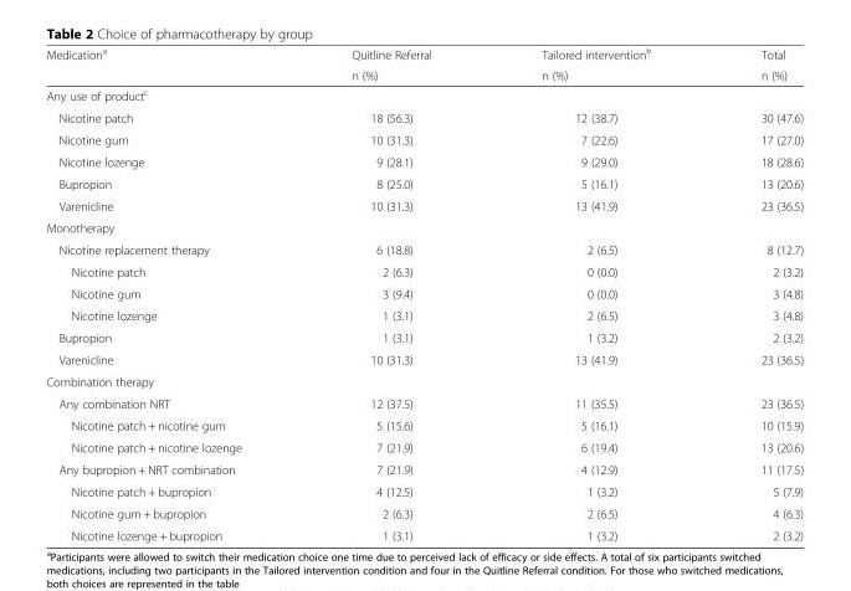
<table><thead><tr><td rowspan="2">Medication<sup>a</sup></td><td rowspan="2">Quitline Referral n (%)</td><td rowspan="2">Tailored intervention<sup>b</sup> n (%)</td><td rowspan="2">Total n (%)</td></tr><tr></tr></thead><tbody><tr><td colspan="4">Any use of product<sup>c</sup></td></tr><tr><td>Nicotine patch</td><td>18 (56.3)</td><td>12 (38.7)</td><td>30 (47.6)</td></tr><tr><td>Nicotine gum</td><td>10 (31.3)</td><td>7 (22.6)</td><td>17 (27.0)</td></tr><tr><td>Nicotine lozenge</td><td>9 (28.1)</td><td>9 (29.0)</td><td>18 (28.6)</td></tr><tr><td>Bupropion</td><td>8 (25.0)</td><td>5 (16.1)</td><td>13 (20.6)</td></tr><tr><td>Varenicline</td><td>10 (31.3)</td><td>13 (41.9)</td><td>23 (36.5)</td></tr><tr><td colspan="4">Monotherapy</td></tr><tr><td>Nicotine replacement therapy</td><td>6 (18.8)</td><td>2 (6.5)</td><td>8 (12.7)</td></tr><tr><td>Nicotine patch</td><td>2 (6.3)</td><td>0 (0.0)</td><td>2 (3.2)</td></tr><tr><td>Nicotine gum</td><td>3 (9.4)</td><td>0 (0.0)</td><td>3 (4.8)</td></tr><tr><td>Nicotine lozenge</td><td>1 (3.1)</td><td>2 (6.5)</td><td>3 (4.8)</td></tr><tr><td>Bupropion</td><td>1 (3.1)</td><td>1 (3.2)</td><td>2 (3.2)</td></tr><tr><td>Varenicline</td><td>10 (31.3)</td><td>13 (41.9)</td><td>23 (36.5)</td></tr><tr><td colspan="4">Combination therapy</td></tr><tr><td>Any combination NRT</td><td>12 (37.5)</td><td>11 (35.5)</td><td>23 (36.5)</td></tr><tr><td>Nicotine patch + nicotine gum</td><td>5 (15.6)</td><td>5 (16.1)</td><td>10 (15.9)</td></tr><tr><td>Nicotine patch + nicotine lozenge</td><td>7 (21.9)</td><td>6 (19.4)</td><td>13 (20.6)</td></tr><tr><td>Any bupropion + NRT combination</td><td>7 (21.9)</td><td>4 (12.9)</td><td>11 (17.5)</td></tr><tr><td>Nicotine patch + bupropion</td><td>4 (12.5)</td><td>1 (3.2)</td><td>5 (7.9)</td></tr><tr><td>Nicotine gum + bupropion</td><td>2 (6.3)</td><td>2 (6.5)</td><td>4 (6.3)</td></tr><tr><td>Nicotine lozenge + bupropion</td><td>1 (3.1)</td><td>1 (3.2)</td><td>2 (3.2)</td></tr></tbody></table>